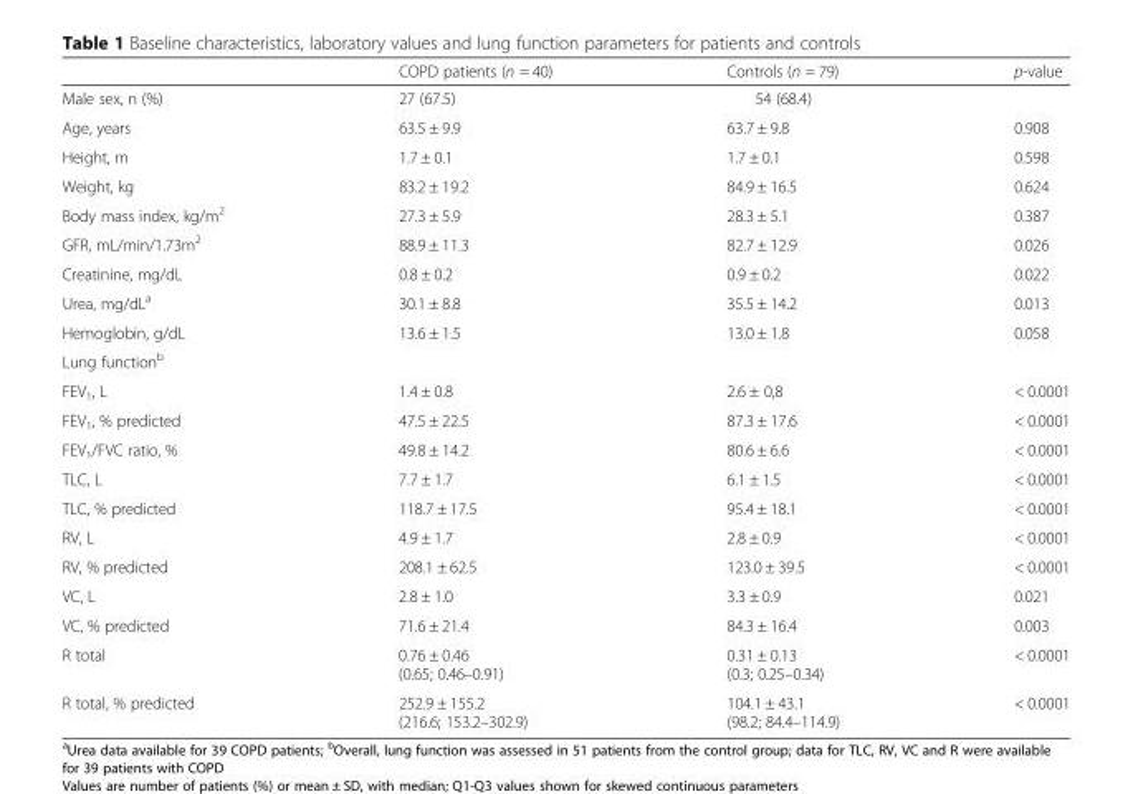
<table><thead><tr><td></td><td>COPD patients (n = 40)</td><td>Controls (n = 79)</td><td>p-value</td></tr></thead><tbody><tr><td>Male sex, n (%)</td><td>27 (67.5)</td><td>54 (68.4)</td><td></td></tr><tr><td>Age, years</td><td>63.5 ± 9.9</td><td>63.7 ± 9.8</td><td>0.908</td></tr><tr><td>Height, m</td><td>1.7 ± 0.1</td><td>1.7 ± 0.1</td><td>0.598</td></tr><tr><td>Weight, kg</td><td>83.2 ± 19.2</td><td>84.9 ± 16.5</td><td>0.624</td></tr><tr><td>Body mass index, kg/m<sup>2</sup></td><td>27.3 ± 5.9</td><td>28.3 ± 5.1</td><td>0.387</td></tr><tr><td>GFR, mL/min/1.73m<sup>2</sup></td><td>88.9 ± 11.3</td><td>82.7 ± 12.9</td><td>0.026</td></tr><tr><td>Creatinine, mg/dL</td><td>0.8 ± 0.2</td><td>0.9 ± 0.2</td><td>0.022</td></tr><tr><td>Urea, mg/dL<sup>a</sup></td><td>30.1 ± 8.8</td><td>35.5 ± 14.2</td><td>0.013</td></tr><tr><td>Hemoglobin, g/dL</td><td>13.6 ± 1.5</td><td>13.0 ± 1.8</td><td>0.058</td></tr><tr><td colspan="4">Lung function<sup>b</sup></td></tr><tr><td>FEV<sub>1</sub>, L</td><td>1.4 ± 0.8</td><td>2.6 ± 0,8</td><td>&lt; 0.0001</td></tr><tr><td>FEV<sub>1</sub>, % predicted</td><td>47.5 ± 22.5</td><td>87.3 ± 17.6</td><td>&lt; 0.0001</td></tr><tr><td>FEV<sub>1</sub>/FVC ratio, %</td><td>49.8 ± 14.2</td><td>80.6 ± 6.6</td><td>&lt; 0.0001</td></tr><tr><td>TLC, L</td><td>7.7 ± 1.7</td><td>6.1 ± 1.5</td><td>&lt; 0.0001</td></tr><tr><td>TLC, % predicted</td><td>118.7 ± 17.5</td><td>95.4 ± 18.1</td><td>&lt; 0.0001</td></tr><tr><td>RV, L</td><td>4.9 ± 1.7</td><td>2.8 ± 0.9</td><td>&lt; 0.0001</td></tr><tr><td>RV, % predicted</td><td>208.1 ± 62.5</td><td>123.0 ± 39.5</td><td>&lt; 0.0001</td></tr><tr><td>VC, L</td><td>2.8 ± 1.0</td><td>3.3 ± 0.9</td><td>0.021</td></tr><tr><td>VC, % predicted</td><td>71.6 ± 21.4</td><td>84.3 ± 16.4</td><td>0.003</td></tr><tr><td>R total</td><td>0.76 ± 0.46 (0.65; 0.46–0.91)</td><td>0.31 ± 0.13 (0.3; 0.25–0.34)</td><td>&lt; 0.0001</td></tr><tr><td>R total, % predicted</td><td>252.9 ± 155.2 (216.6; 153.2–302.9)</td><td>104.1 ± 43.1 (98.2; 84.4–114.9)</td><td>&lt; 0.0001</td></tr></tbody></table>